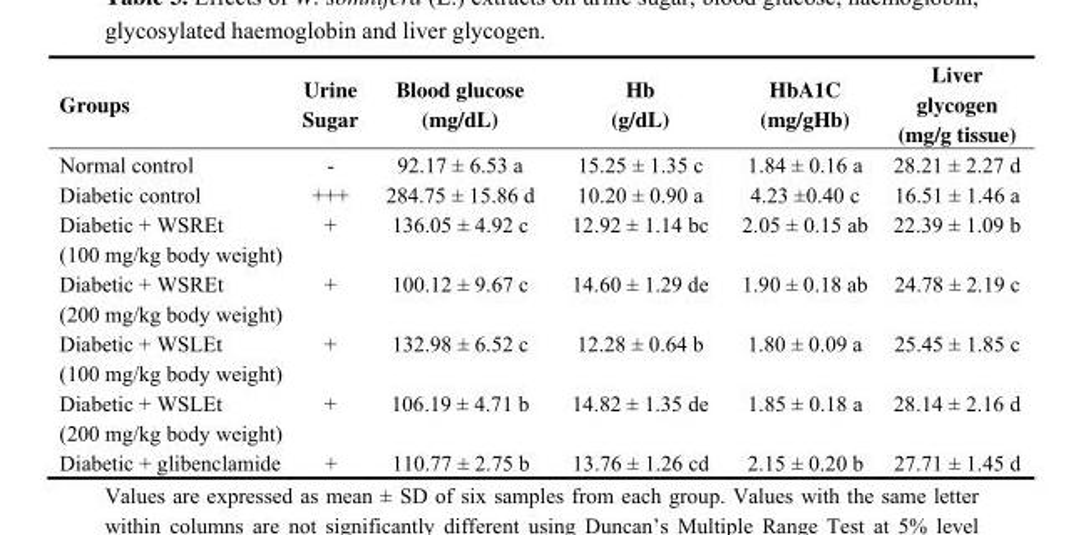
<table><thead><tr><td>Groups</td><td>Urine Sugar</td><td>Blood glucose (mg/dL)</td><td>Hb (g/dL)</td><td>HbA1C (mg/gHb)</td><td>Liver glycogen (mg/g tissue)</td></tr></thead><tbody><tr><td>Normal control</td><td>-</td><td>92.17 ± 6.53 a</td><td>15.25 ± 1.35 c</td><td>1.84 ± 0.16 a</td><td>28.21 ± 2.27 d</td></tr><tr><td>Diabetic control</td><td>+++</td><td>284.75 ± 15.86 d</td><td>10.20 ± 0.90 a</td><td>4.23 ±0.40 c</td><td>16.51 ± 1.46 a</td></tr><tr><td>Diabetic + WSREt (100 mg/kg body weight)</td><td>+</td><td>136.05 ± 4.92 c</td><td>12.92 ± 1.14 bc</td><td>2.05 ± 0.15 ab</td><td>22.39 ± 1.09 b</td></tr><tr><td>Diabetic + WSREt (200 mg/kg body weight)</td><td>+</td><td>100.12 ± 9.67 c</td><td>14.60 ± 1.29 de</td><td>1.90 ± 0.18 ab</td><td>24.78 ± 2.19 c</td></tr><tr><td>Diabetic + WSLEt (100 mg/kg body weight)</td><td>+</td><td>132.98 ± 6.52 c</td><td>12.28 ± 0.64 b</td><td>1.80 ± 0.09 a</td><td>25.45 ± 1.85 c</td></tr><tr><td>Diabetic + WSLEt (200 mg/kg body weight)</td><td>+</td><td>106.19 ± 4.71 b</td><td>14.82 ± 1.35 de</td><td>1.85 ± 0.18 a</td><td>28.14 ± 2.16 d</td></tr><tr><td>Diabetic + glibenclamide</td><td>+</td><td>110.77 ± 2.75 b</td><td>13.76 ± 1.26 cd</td><td>2.15 ± 0.20 b</td><td>27.71 ± 1.45 d</td></tr></tbody></table>